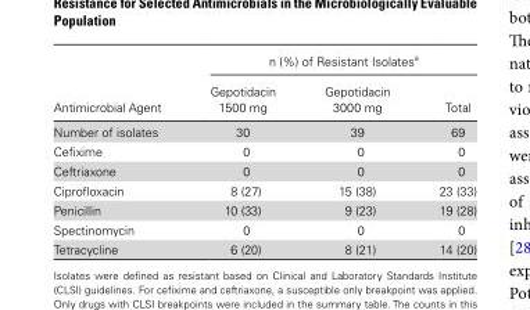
<table><thead><tr><td rowspan="2">Antimicrobial Agent</td><td colspan="3">n (%) of Resistant Isolates<sup>a</sup></td></tr><tr><td>Gepotidacin 1500 mg</td><td>Gepotidacin 3000 mg</td><td>Total</td></tr></thead><tbody><tr><td>Number of isolates</td><td>30</td><td>39</td><td>69</td></tr><tr><td>Cefixime</td><td>0</td><td>0</td><td>0</td></tr><tr><td>Ceftriaxone</td><td>0</td><td>0</td><td>0</td></tr><tr><td>Ciprofloxacin</td><td>8 (27)</td><td>15 (38)</td><td>23 (33)</td></tr><tr><td>Penicillin</td><td>10 (33)</td><td>9 (23)</td><td>19 (28)</td></tr><tr><td>Spectinomycin</td><td>0</td><td>0</td><td>0</td></tr><tr><td>Tetracycline</td><td>6 (20)</td><td>8 (21)</td><td>14 (20)</td></tr></tbody></table>